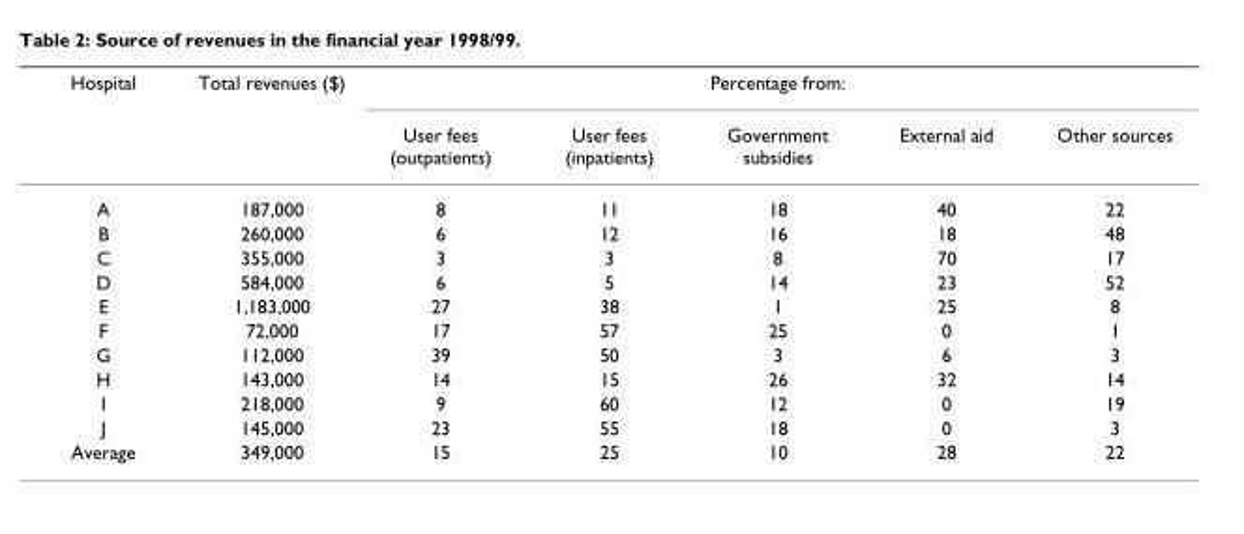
<table><thead><tr><td rowspan="2">Hospital</td><td rowspan="2">Total revenues ($)</td><td colspan="5">Percentage from:</td></tr><tr><td>User fees (outpatients)</td><td>User fees (inpatients)</td><td>Government subsidies</td><td>External aid</td><td>Other sources</td></tr></thead><tbody><tr><td>A</td><td>187,000</td><td>8</td><td>11</td><td>18</td><td>40</td><td>22</td></tr><tr><td>B</td><td>260,000</td><td>6</td><td>12</td><td>16</td><td>18</td><td>48</td></tr><tr><td>C</td><td>355,000</td><td>3</td><td>3</td><td>8</td><td>70</td><td>17</td></tr><tr><td>D</td><td>584,000</td><td>6</td><td>5</td><td>14</td><td>23</td><td>52</td></tr><tr><td>E</td><td>1,183,000</td><td>27</td><td>38</td><td>1</td><td>25</td><td>8</td></tr><tr><td>F</td><td>72,000</td><td>17</td><td>57</td><td>25</td><td>0</td><td>1</td></tr><tr><td>G</td><td>112,000</td><td>39</td><td>50</td><td>3</td><td>6</td><td>3</td></tr><tr><td>H</td><td>143,000</td><td>14</td><td>15</td><td>26</td><td>32</td><td>14</td></tr><tr><td>I</td><td>218,000</td><td>9</td><td>60</td><td>12</td><td>0</td><td>19</td></tr><tr><td>J</td><td>145,000</td><td>23</td><td>55</td><td>18</td><td>0</td><td>3</td></tr><tr><td>Average</td><td>349,000</td><td>15</td><td>25</td><td>10</td><td>28</td><td>22</td></tr></tbody></table>